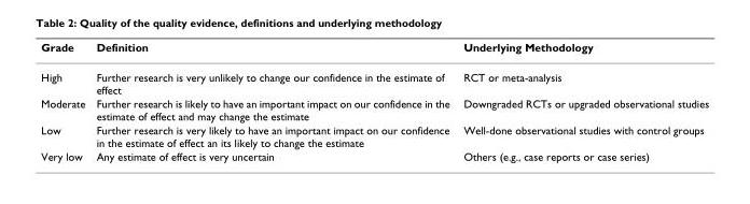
<table><thead><tr><td>Grade</td><td>Definition</td><td>Underlying Methodology</td></tr></thead><tbody><tr><td>High</td><td>Further research is very unlikely to change our confidence in the estimate of effect</td><td>RCT or meta-analysis</td></tr><tr><td>Moderate</td><td>Further research is likely to have an important impact on our confidence in the estimate of effect and may change the estimate</td><td>Downgraded RCTs or upgraded observational studies</td></tr><tr><td>Low</td><td>Further research is very likely to have an important impact on our confidence in the estimate of effect an its likely to change the estimate</td><td>Well-done observational studies with control groups</td></tr><tr><td>Very low</td><td>Any estimate of effect is very uncertain</td><td>Others (e.g., case reports or case series)</td></tr></tbody></table>